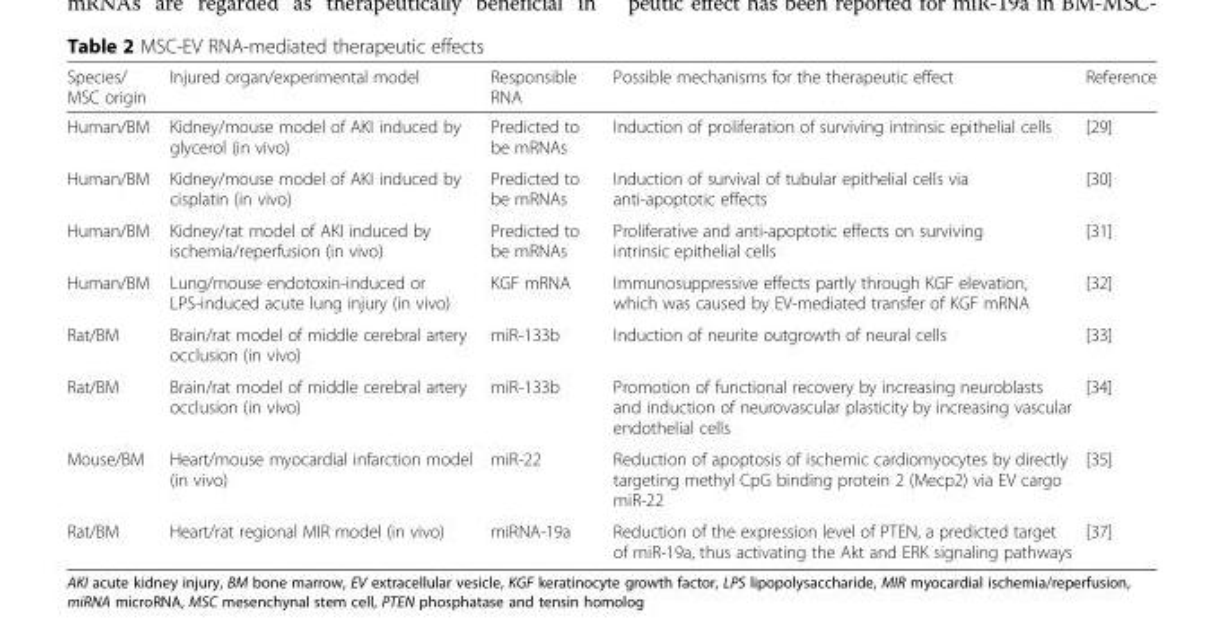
<table><thead><tr><td>Species/ MSC origin</td><td>Injured organ/experimental model</td><td>Responsible RNA</td><td>Possible mechanisms for the therapeutic effect</td><td>Reference</td></tr></thead><tbody><tr><td>Human/BM</td><td>Kidney/mouse model of AKI induced by glycerol (in vivo)</td><td>Predicted to be mRNAs</td><td>Induction of proliferation of surviving intrinsic epithelial cells</td><td>[29]</td></tr><tr><td>Human/BM</td><td>Kidney/mouse model of AKI induced by cisplatin (in vivo)</td><td>Predicted to be mRNAs</td><td>Induction of survival of tubular epithelial cells via anti-apoptotic effects</td><td>[30]</td></tr><tr><td>Human/BM</td><td>Kidney/rat model of AKI induced by ischemia/reperfusion (in vivo)</td><td>Predicted to be mRNAs</td><td>Proliferative and anti-apoptotic effects on surviving intrinsic epithelial cells</td><td>[31]</td></tr><tr><td>Human/BM</td><td>Lung/mouse endotoxin-induced or LPS-induced acute lung injury (in vivo)</td><td>KGF mRNA</td><td>Immunosuppressive effects partly through KGF elevation, which was caused by EV-mediated transfer of KGF mRNA</td><td>[32]</td></tr><tr><td>Rat/BM</td><td>Brain/rat model of middle cerebral artery occlusion (in vivo)</td><td>miR-133b</td><td>Induction of neurite outgrowth of neural cells</td><td>[33]</td></tr><tr><td>Rat/BM</td><td>Brain/rat model of middle cerebral artery occlusion (in vivo)</td><td>miR-133b</td><td>Promotion of functional recovery by increasing neuroblasts and induction of neurovascular plasticity by increasing vascular endothelial cells</td><td>[34]</td></tr><tr><td>Mouse/BM</td><td>Heart/mouse myocardial infarction model (in vivo)</td><td>miR-22</td><td>Reduction of apoptosis of ischemic cardiomyocytes by directly targeting methyl CpG binding protein 2 (Mecp2) via EV cargo miR-22</td><td>[35]</td></tr><tr><td>Rat/BM</td><td>Heart/rat regional MIR model (in vivo)</td><td>miRNA-19a</td><td>Reduction of the expression level of PTEN, a predicted target of miR-19a, thus activating the Akt and ERK signaling pathways</td><td>[37]</td></tr></tbody></table>